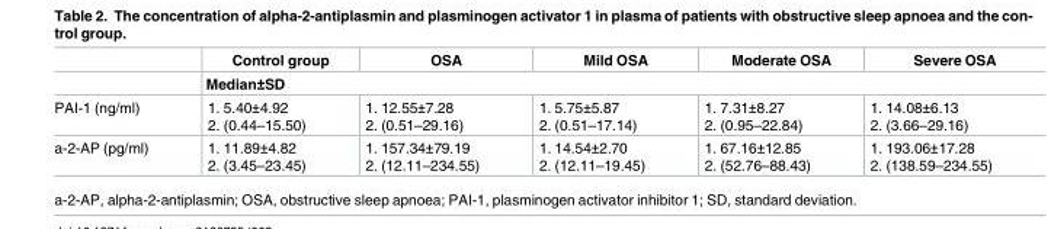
<table><thead><tr><td rowspan="2"></td><td>Control group</td><td>OSA</td><td>Mild OSA</td><td>Moderate OSA</td><td>Severe OSA</td></tr><tr><td colspan="5">Median±SD</td></tr></thead><tbody><tr><td>PAI-1 (ng/ml)</td><td>1. 5.40±4.92 2. (0.44–15.50)</td><td>1. 12.55±7.28 2. (0.51–29.16)</td><td>1. 5.75±5.87 2. (0.51–17.14)</td><td>1. 7.31±8.27 2. (0.95–22.84)</td><td>1. 14.08±6.13 2. (3.66–29.16)</td></tr><tr><td>a-2-AP (pg/ml)</td><td>1. 11.89±4.82 2. (3.45–23.45)</td><td>1. 157.34±79.19 2. (12.11–234.55)</td><td>1. 14.54±2.70 2. (12.11–19.45)</td><td>1. 67.16±12.85 2. (52.76–88.43)</td><td>1. 193.06±17.28 2. (138.59–234.55)</td></tr></tbody></table>